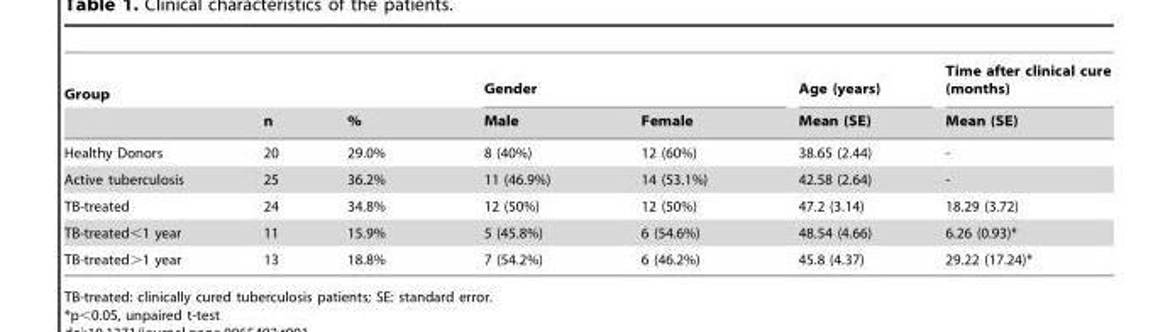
<table><thead><tr><td rowspan="2">Group</td><td rowspan="2">n</td><td rowspan="2">%</td><td colspan="2">Gender</td><td rowspan="2">Age (years) Mean (SE)</td><td rowspan="2">Time after clinical cure (months) Mean (SE)</td></tr><tr><td>Male</td><td>Female</td></tr></thead><tbody><tr><td>Healthy Donors</td><td>20</td><td>29.0%</td><td>8 (40%)</td><td>12 (60%)</td><td>38.65 (2.44)</td><td>-</td></tr><tr><td>Active tuberculosis</td><td>25</td><td>36.2%</td><td>11 (46.9%)</td><td>14 (53.1%)</td><td>42.58 (2.64)</td><td>-</td></tr><tr><td>TB-treated</td><td>24</td><td>34.8%</td><td>12 (50%)</td><td>12 (50%)</td><td>47.2 (3.14)</td><td>18.29 (3.72)</td></tr><tr><td>TB-treated&lt;1 year</td><td>11</td><td>15.9%</td><td>5 (45.8%)</td><td>6 (54.6%)</td><td>48.54 (4.66)</td><td>6.26 (0.93)*</td></tr><tr><td>TB-treated&gt;1 year</td><td>13</td><td>18.8%</td><td>7 (54.2%)</td><td>6 (46.2%)</td><td>45.8 (4.37)</td><td>29.22 (17.24)*</td></tr></tbody></table>